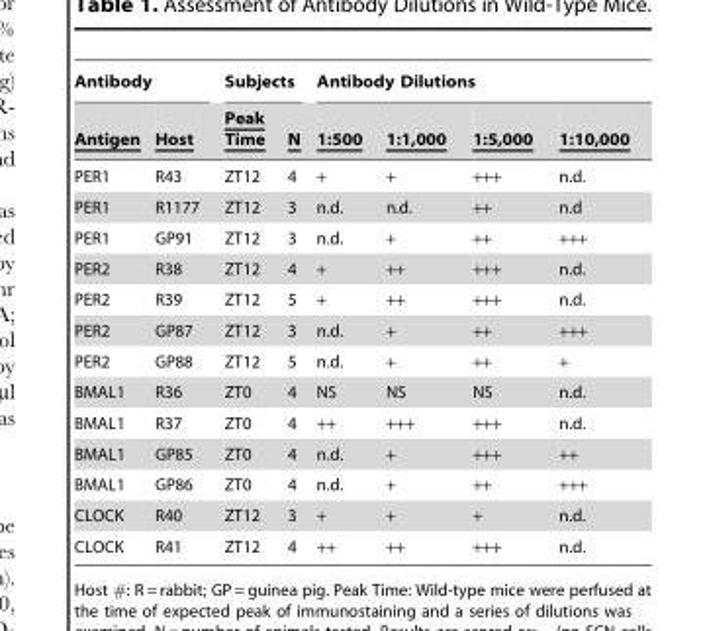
<table><thead><tr><td colspan="2">Antibody</td><td colspan="2">Subjects</td><td colspan="4">Antibody Dilutions</td></tr><tr><td>Antigen</td><td>Host</td><td>Peak Time</td><td>N</td><td>1:500</td><td>1:1,000</td><td>1:5,000</td><td>1:10,000</td></tr></thead><tbody><tr><td>PER1</td><td>R43</td><td>ZT12</td><td>4</td><td>+</td><td>+</td><td>+++</td><td>n.d.</td></tr><tr><td>PER1</td><td>R1177</td><td>ZT12</td><td>3</td><td>n.d.</td><td>n.d.</td><td>++</td><td>n.d</td></tr><tr><td>PER1</td><td>GP91</td><td>ZT12</td><td>3</td><td>n.d.</td><td>+</td><td>++</td><td>+++</td></tr><tr><td>PER2</td><td>R38</td><td>ZT12</td><td>4</td><td>+</td><td>++</td><td>+++</td><td>n.d.</td></tr><tr><td>PER2</td><td>R39</td><td>ZT12</td><td>5</td><td>+</td><td>++</td><td>+++</td><td>n.d.</td></tr><tr><td>PER2</td><td>GP87</td><td>ZT12</td><td>3</td><td>n.d.</td><td>+</td><td>++</td><td>+++</td></tr><tr><td>PER2</td><td>GP88</td><td>ZT12</td><td>5</td><td>n.d.</td><td>+</td><td>++</td><td>+</td></tr><tr><td>BMAL1</td><td>R36</td><td>ZT0</td><td>4</td><td>NS</td><td>NS</td><td>NS</td><td>n.d.</td></tr><tr><td>BMAL1</td><td>R37</td><td>ZT0</td><td>4</td><td>++</td><td>+++</td><td>+++</td><td>n.d.</td></tr><tr><td>BMAL1</td><td>GP85</td><td>ZT0</td><td>4</td><td>n.d.</td><td>+</td><td>+++</td><td>++</td></tr><tr><td>BMAL1</td><td>GP86</td><td>ZT0</td><td>4</td><td>n.d.</td><td>+</td><td>++</td><td>+++</td></tr><tr><td>CLOCK</td><td>R40</td><td>ZT12</td><td>3</td><td>+</td><td>+</td><td>+</td><td>n.d.</td></tr><tr><td>CLOCK</td><td>R41</td><td>ZT12</td><td>4</td><td>++</td><td>++</td><td>+++</td><td>n.d.</td></tr></tbody></table>